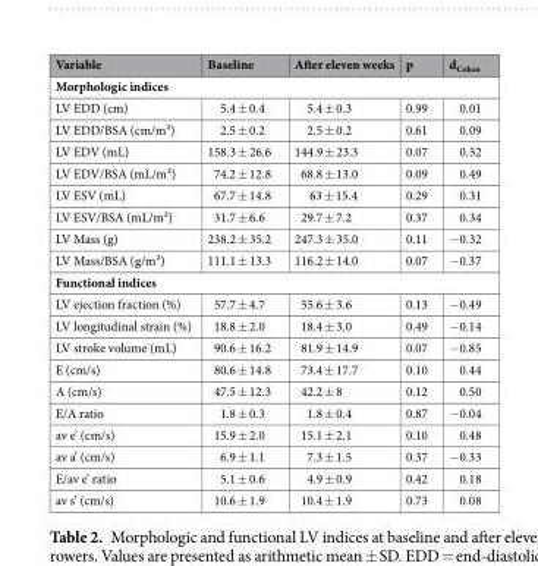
<table><thead><tr><td>Variable</td><td>Baseline</td><td>After eleven weeks</td><td>p</td><td>d<sub>Cohen</sub></td></tr></thead><tbody><tr><td colspan="5">Morphologic indices</td></tr><tr><td>LV EDD (cm)</td><td>5.4 ± 0.4</td><td>5.4 ± 0.3</td><td>0.99</td><td>0.01</td></tr><tr><td>LV EDD/BSA (cm/m²)</td><td>2.5 ± 0.2</td><td>2.5 ± 0.2</td><td>0.61</td><td>0.09</td></tr><tr><td>LV EDV (mL)</td><td>158.3 ± 26.6</td><td>144.9 ± 23.3</td><td>0.07</td><td>0.52</td></tr><tr><td>LV EDV/BSA (mL/m²)</td><td>74.2 ± 12.8</td><td>68.8 ± 13.0</td><td>0.09</td><td>0.49</td></tr><tr><td>LV ESV (mL)</td><td>67.7 ± 14.8</td><td>63 ± 15.4</td><td>0.29</td><td>0.31</td></tr><tr><td>LV ESV/BSA (mL/m²)</td><td>31.7 ± 6.6</td><td>29.7 ± 7.2</td><td>0.37</td><td>0.34</td></tr><tr><td>LV Mass (g)</td><td>238.2 ± 35.2</td><td>247.3 ± 35.0</td><td>0.11</td><td>−0.32</td></tr><tr><td>LV Mass/BSA (g/m²)</td><td>111.1 ± 13.3</td><td>116.2 ± 14.0</td><td>0.07</td><td>−0.37</td></tr><tr><td colspan="5">Functional indices</td></tr><tr><td>LV ejection fraction (%)</td><td>57.7 ± 4.7</td><td>55.6 ± 3.6</td><td>0.13</td><td>−0.49</td></tr><tr><td>LV longitudinal strain (%)</td><td>18.8 ± 2.0</td><td>18.4 ± 3.0</td><td>0.49</td><td>−0.14</td></tr><tr><td>LV stroke volume (mL)</td><td>90.6 ± 16.2</td><td>81.9 ± 14.9</td><td>0.07</td><td>−0.85</td></tr><tr><td>E (cm/s)</td><td>80.6 ± 14.8</td><td>73.4 ± 17.7</td><td>0.10</td><td>0.44</td></tr><tr><td>A (cm/s)</td><td>47.5 ± 12.3</td><td>42.2 ± 8</td><td>0.12</td><td>0.50</td></tr><tr><td>E/A ratio</td><td>1.8 ± 0.3</td><td>1.8 ± 0.4</td><td>0.87</td><td>−0.04</td></tr><tr><td>av e’ (cm/s)</td><td>15.9 ± 2.0</td><td>15.1 ± 2.1</td><td>0.10</td><td>0.48</td></tr><tr><td>av a’ (cm/s)</td><td>6.9 ± 1.1</td><td>7.3 ± 1.5</td><td>0.37</td><td>−0.33</td></tr><tr><td>E/av e’ ratio</td><td>5.1 ± 0.6</td><td>4.9 ± 0.9</td><td>0.42</td><td>0.18</td></tr><tr><td>av s’ (cm/s)</td><td>10.6 ± 1.9</td><td>10.4 ± 1.9</td><td>0.73</td><td>0.08</td></tr></tbody></table>